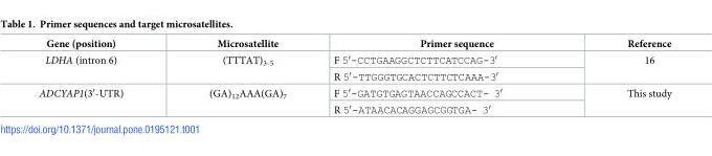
<table><thead><tr><td>Gene (position)</td><td>Microsatellite</td><td>Primer sequence</td><td>Reference</td></tr></thead><tbody><tr><td rowspan="2">LDHA (intron 6)</td><td rowspan="2">(TTTAT)<sub>3-5</sub></td><td>F 5′-CCTGAAGGCTCTTCATCCAG-3′</td><td rowspan="2">16</td></tr><tr><td>R 5′-TTGGGTGCACTCTTCTCAAA-3′</td></tr><tr><td rowspan="2">ADCYAP1(3′-UTR)</td><td rowspan="2">(GA)<sub>12</sub>AAA(GA)<sub>7</sub></td><td>F 5′-GATGTGAGTAACCAGCCACT- 3′</td><td rowspan="2">This study</td></tr><tr><td>R 5′-ATAACACAGGAGCGGTGA- 3′</td></tr></tbody></table>